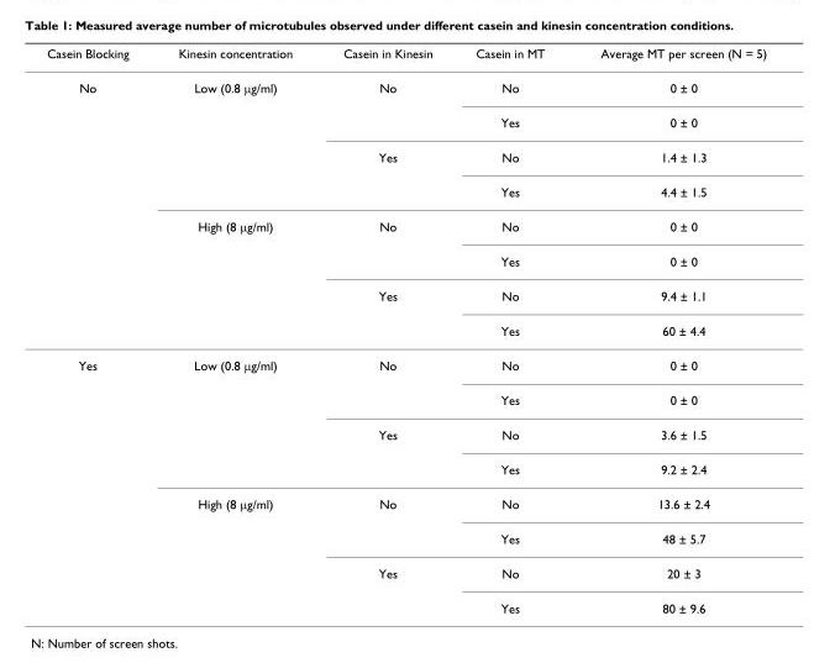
<table><thead><tr><td>Casein Blocking</td><td>Kinesin concentration</td><td>Casein in Kinesin</td><td>Casein in MT</td><td>Average MT per screen (N = 5)</td></tr></thead><tbody><tr><td rowspan="8">No</td><td>Low (0.8 μg/ml)</td><td>No</td><td>No</td><td>0 ± 0</td></tr><tr><td></td><td></td><td>Yes</td><td>0 ± 0</td></tr><tr><td></td><td>Yes</td><td>No</td><td>1.4 ± 1.3</td></tr><tr><td></td><td></td><td>Yes</td><td>4.4 ± 1.5</td></tr><tr><td>High (8 μg/ml)</td><td>No</td><td>No</td><td>0 ± 0</td></tr><tr><td></td><td></td><td>Yes</td><td>0 ± 0</td></tr><tr><td></td><td>Yes</td><td>No</td><td>9.4 ± 1.1</td></tr><tr><td></td><td></td><td>Yes</td><td>60 ± 4.4</td></tr><tr><td rowspan="8">Yes</td><td>Low (0.8 μg/ml)</td><td>No</td><td>No</td><td>0 ± 0</td></tr><tr><td></td><td></td><td>Yes</td><td>0 ± 0</td></tr><tr><td></td><td>Yes</td><td>No</td><td>3.6 ± 1.5</td></tr><tr><td></td><td></td><td>Yes</td><td>9.2 ± 2.4</td></tr><tr><td>High (8 μg/ml)</td><td>No</td><td>No</td><td>13.6 ± 2.4</td></tr><tr><td></td><td></td><td>Yes</td><td>48 ± 5.7</td></tr><tr><td></td><td>Yes</td><td>No</td><td>20 ± 3</td></tr><tr><td></td><td></td><td>Yes</td><td>80 ± 9.6</td></tr></tbody></table>